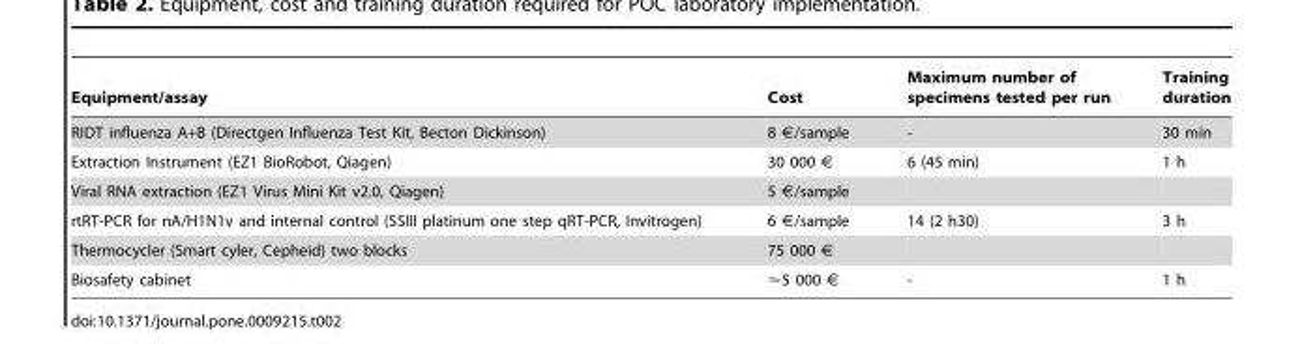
<table><thead><tr><td>Equipment/assay</td><td>Cost</td><td>Maximum number of specimens tested per run</td><td>Training duration</td></tr></thead><tbody><tr><td>RIDT influenza A+B (Directgen Influenza Test Kit, Becton Dickinson)</td><td>8 €/sample</td><td>-</td><td>30 min</td></tr><tr><td>Extraction Instrument (EZ1 BioRobot, Qiagen)</td><td>30 000 €</td><td>6 (45 min)</td><td>1 h</td></tr><tr><td>Viral RNA extraction (EZ1 Virus Mini Kit v2.0, Qiagen)</td><td>5 €/sample</td><td></td><td></td></tr><tr><td>rtRT-PCR for nA/H1N1v and internal control (SSIII platinum one step qRT-PCR, Invitrogen)</td><td>6 €/sample</td><td>14 (2 h30)</td><td>3 h</td></tr><tr><td>Thermocycler (Smart cyler, Cepheid) two blocks</td><td>75 000 €</td><td></td><td></td></tr><tr><td>Biosafety cabinet</td><td>&lt;5 000 J</td><td>-</td><td>1 h</td></tr></tbody></table>